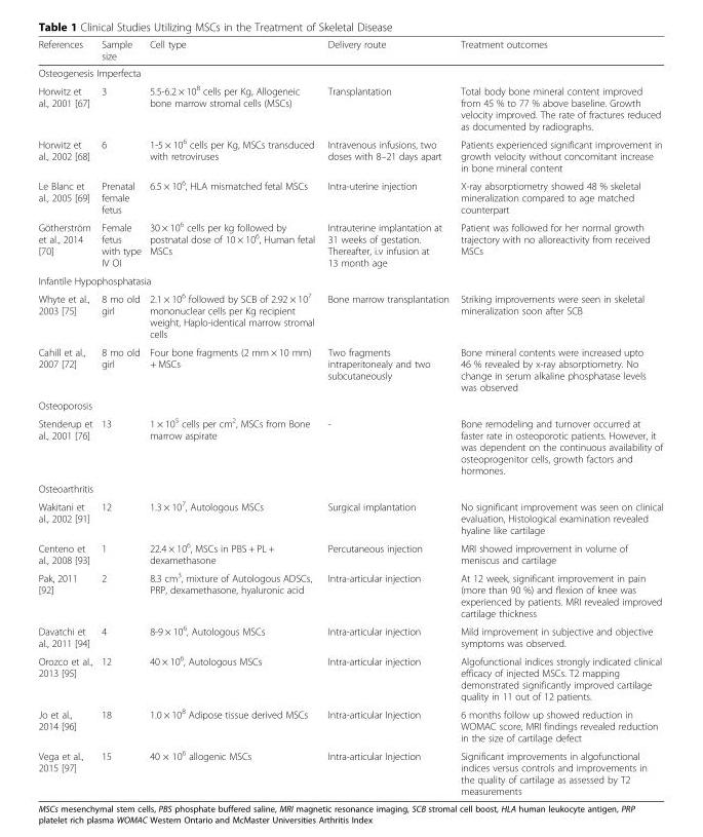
<table><thead><tr><td>References</td><td>Sample size</td><td>Cell type</td><td>Delivery route</td><td>Treatment outcomes</td></tr></thead><tbody><tr><td colspan="5">Osteogenesis Imperfecta</td></tr><tr><td>Horwitz et al., 2001 [67]</td><td>3</td><td>5.5-6.2 × 10<sup>8</sup> cells per Kg, Allogeneic bone marrow stromal cells (MSCs)</td><td>Transplantation</td><td>Total body bone mineral content improved from 45 % to 77 % above baseline. Growth velocity improved. The rate of fractures reduced as documented by radiographs.</td></tr><tr><td>Horwitz et al., 2002 [68]</td><td>6</td><td>1-5 × 10<sup>6</sup> cells per Kg, MSCs transduced with retroviruses</td><td>Intravenous infusions, two doses with 8–21 days apart</td><td>Patients experienced significant improvement in growth velocity without concomitant increase in bone mineral content</td></tr><tr><td>Le Blanc et al., 2005 [69]</td><td>Prenatal female fetus</td><td>6.5 × 10<sup>6</sup>, HLA mismatched fetal MSCs</td><td>Intra-uterine injection</td><td>X-ray absorptiometry showed 48 % skeletal mineralization compared to age matched counterpart</td></tr><tr><td>Götherström et al., 2014 [70]</td><td>Female fetus with type IV OI</td><td>30 × 10<sup>6</sup> cells per kg followed by postnatal dose of 10 × 10<sup>6</sup>, Human fetal MSCs</td><td>Intrauterine implantation at 31 weeks of gestation. Thereafter, i.v infusion at 13 month age</td><td>Patient was followed for her normal growth trajectory with no alloreactivity from received MSCs</td></tr><tr><td colspan="5">Infantile Hypophosphatasia</td></tr><tr><td>Whyte et al., 2003 [75]</td><td>8 mo old girl</td><td>2.1 × 10<sup>6</sup> followed by SCB of 2.92 × 10<sup>7</sup> mononuclear cells per Kg recipient weight, Haplo-identical marrow stromal cells</td><td>Bone marrow transplantation</td><td>Striking improvements were seen in skeletal mineralization soon after SCB</td></tr><tr><td>Cahill et al., 2007 [72]</td><td>8 mo old girl</td><td>Four bone fragments (2 mm × 10 mm) + MSCs</td><td>Two fragments intraperitonealy and two subcutaneously</td><td>Bone mineral contents were increased upto 46 % revealed by x-ray absorptiometry. No change in serum alkaline phosphatase levels was observed</td></tr><tr><td colspan="5">Osteoporosis</td></tr><tr><td>Stenderup et al., 2001 [76]</td><td>13</td><td>1 × 10<sup>5</sup> cells per cm<sup>2</sup>, MSCs from Bone marrow aspirate</td><td>-</td><td>Bone remodeling and turnover occurred at faster rate in osteoporotic patients. However, it was dependent on the continuous availability of osteoprogenitor cells, growth factors and hormones.</td></tr><tr><td colspan="5">Osteoarthritis</td></tr><tr><td>Wakitani et al., 2002 [91]</td><td>12</td><td>1.3 × 10<sup>7</sup>, Autologous MSCs</td><td>Surgical implantation</td><td>No significant improvement was seen on clinical evaluation, Histological examination revealed hyaline like cartilage</td></tr><tr><td>Centeno et al., 2008 [93]</td><td>1</td><td>22.4 × 10<sup>6</sup>, MSCs in PBS + PL + dexamethasone</td><td>Percutaneous injection</td><td>MRI showed improvement in volume of meniscus and cartilage</td></tr><tr><td>Pak, 2011 [92]</td><td>2</td><td>8.3 cm<sup>3</sup>, mixture of Autologous ADSCs, PRP, dexamethasone, hyaluronic acid</td><td>Intra-articular injection</td><td>At 12 week, significant improvement in pain (more than 90 %) and flexion of knee was experienced by patients. MRI revealed improved cartilage thickness</td></tr><tr><td>Davatchi et al., 2011 [94]</td><td>4</td><td>8-9 × 10<sup>6</sup>, Autologous MSCs</td><td>Intra-articular injection</td><td>Mild improvement in subjective and objective symptoms was observed.</td></tr><tr><td>Orozco et al., 2013 [95]</td><td>12</td><td>40 × 10<sup>6</sup>, Autologous MSCs</td><td>Intra-articular injection</td><td>Algofunctional indices strongly indicated clinical efficacy of injected MSCs. T2 mapping demonstrated significantly improved cartilage quality in 11 out of 12 patients.</td></tr><tr><td>Jo et al., 2014 [96]</td><td>18</td><td>1.0 × 10<sup>8</sup> Adipose tissue derived MSCs</td><td>Intra-articular Injection</td><td>6 months follow up showed reduction in WOMAC score, MRI findings revealed reduction in the size of cartilage defect</td></tr><tr><td>Vega et al., 2015 [97]</td><td>15</td><td>40 × 10<sup>6</sup> allogenic MSCs</td><td>Intra-articular Injection</td><td>Significant improvements in algofunctional indices versus controls and improvements in the quality of cartilage as assessed by T2 measurements</td></tr></tbody></table>